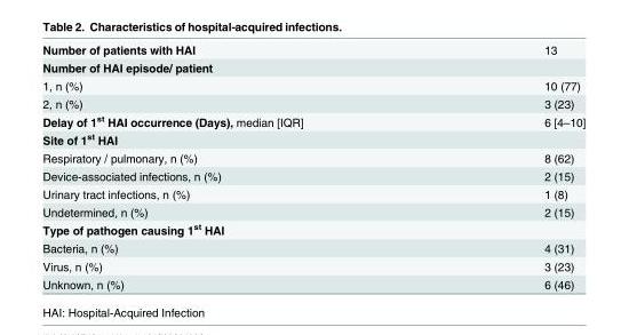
<table><tbody><tr><td>Number of patients with HAI</td><td>13</td></tr><tr><td colspan="2">Number of HAI episode/ patient</td></tr><tr><td>1, n (%)</td><td>10 (77)</td></tr><tr><td>2, n (%)</td><td>3 (23)</td></tr><tr><td>Delay of 1<sup>st</sup> HAI occurrence (Days), median [IQR]</td><td>6 [4–10]</td></tr><tr><td colspan="2">Site of 1<sup>st</sup> HAI</td></tr><tr><td>Respiratory / pulmonary, n (%)</td><td>8 (62)</td></tr><tr><td>Device-associated infections, n (%)</td><td>2 (15)</td></tr><tr><td>Urinary tract infections, n (%)</td><td>1 (8)</td></tr><tr><td>Undetermined, n (%)</td><td>2 (15)</td></tr><tr><td colspan="2">Type of pathogen causing 1<sup>st</sup> HAI</td></tr><tr><td>Bacteria, n (%)</td><td>4 (31)</td></tr><tr><td>Virus, n (%)</td><td>3 (23)</td></tr><tr><td>Unknown, n (%)</td><td>6 (46)</td></tr></tbody></table>